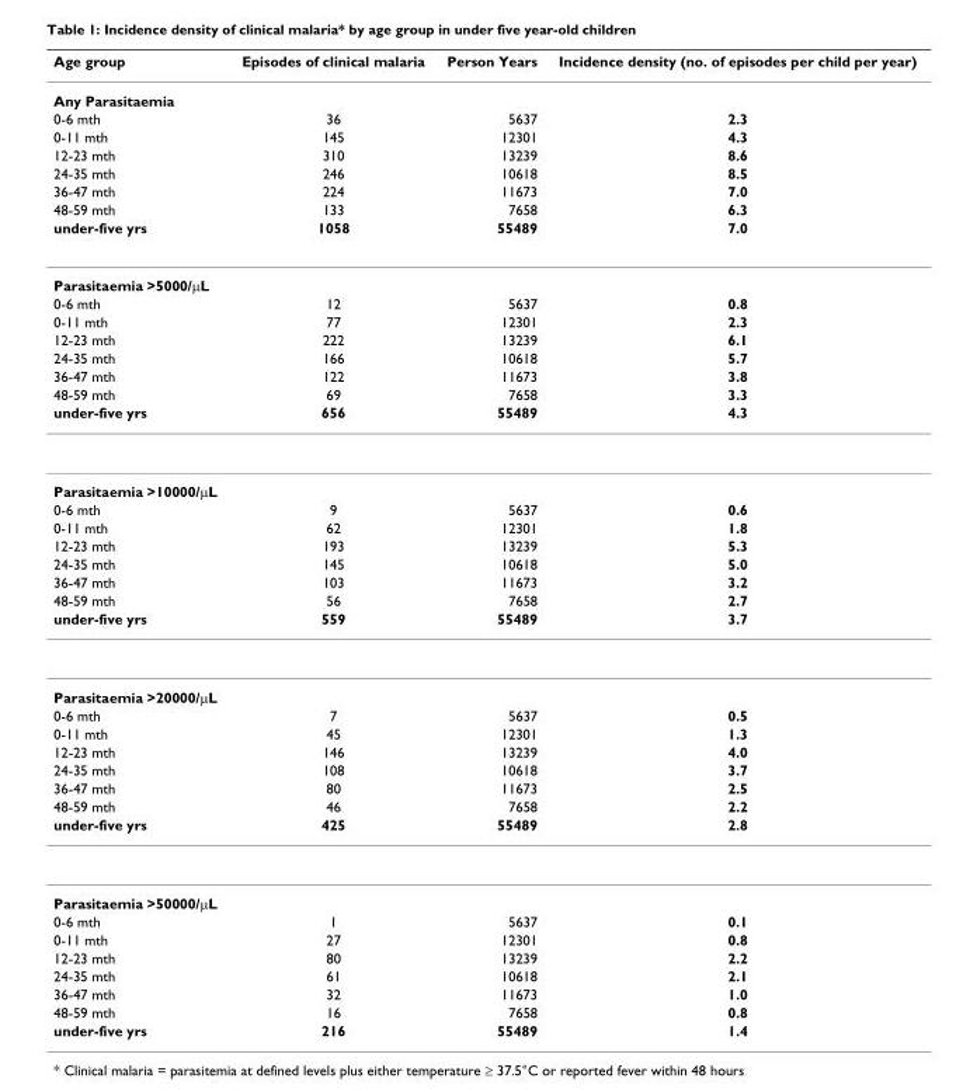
<table><thead><tr><td>Age group</td><td>Episodes of clinical malaria</td><td>Person Years</td><td>Incidence density (no. of episodes per child per year)</td></tr></thead><tbody><tr><td colspan="4">Any Parasitaemia</td></tr><tr><td>0-6 mth</td><td>36</td><td>5637</td><td>2.3</td></tr><tr><td>0-11 mth</td><td>145</td><td>12301</td><td>4.3</td></tr><tr><td>12-23 mth</td><td>310</td><td>13239</td><td>8.6</td></tr><tr><td>24-35 mth</td><td>246</td><td>10618</td><td>8.5</td></tr><tr><td>36-47 mth</td><td>224</td><td>11673</td><td>7.0</td></tr><tr><td>48-59 mth</td><td>133</td><td>7658</td><td>6.3</td></tr><tr><td>under-five yrs</td><td>1058</td><td>55489</td><td>7.0</td></tr><tr><td colspan="4">Parasitaemia &gt;5000/μL</td></tr><tr><td>0-6 mth</td><td>12</td><td>5637</td><td>0.8</td></tr><tr><td>0-11 mth</td><td>77</td><td>12301</td><td>2.3</td></tr><tr><td>12-23 mth</td><td>222</td><td>13239</td><td>6.1</td></tr><tr><td>24-35 mth</td><td>166</td><td>10618</td><td>5.7</td></tr><tr><td>36-47 mth</td><td>122</td><td>11673</td><td>3.8</td></tr><tr><td>48-59 mth</td><td>69</td><td>7658</td><td>3.3</td></tr><tr><td>under-five yrs</td><td>656</td><td>55489</td><td>4.3</td></tr><tr><td colspan="4">Parasitaemia &gt;10000/μL</td></tr><tr><td>0-6 mth</td><td>9</td><td>5637</td><td>0.6</td></tr><tr><td>0-11 mth</td><td>62</td><td>12301</td><td>1.8</td></tr><tr><td>12-23 mth</td><td>193</td><td>13239</td><td>5.3</td></tr><tr><td>24-35 mth</td><td>145</td><td>10618</td><td>5.0</td></tr><tr><td>36-47 mth</td><td>103</td><td>11673</td><td>3.2</td></tr><tr><td>48-59 mth</td><td>56</td><td>7658</td><td>2.7</td></tr><tr><td>under-five yrs</td><td>559</td><td>55489</td><td>3.7</td></tr><tr><td colspan="4">Parasitaemia &gt;20000/μL</td></tr><tr><td>0-6 mth</td><td>7</td><td>5637</td><td>0.5</td></tr><tr><td>0-11 mth</td><td>45</td><td>12301</td><td>1.3</td></tr><tr><td>12-23 mth</td><td>146</td><td>13239</td><td>4.0</td></tr><tr><td>24-35 mth</td><td>108</td><td>10618</td><td>3.7</td></tr><tr><td>36-47 mth</td><td>80</td><td>11673</td><td>2.5</td></tr><tr><td>48-59 mth</td><td>46</td><td>7658</td><td>2.2</td></tr><tr><td>under-five yrs</td><td>425</td><td>55489</td><td>2.8</td></tr><tr><td colspan="4">Parasitaemia &gt;50000/μL</td></tr><tr><td>0-6 mth</td><td>1</td><td>5637</td><td>0.1</td></tr><tr><td>0-11 mth</td><td>27</td><td>12301</td><td>0.8</td></tr><tr><td>12-23 mth</td><td>80</td><td>13239</td><td>2.2</td></tr><tr><td>24-35 mth</td><td>61</td><td>10618</td><td>2.1</td></tr><tr><td>36-47 mth</td><td>32</td><td>11673</td><td>1.0</td></tr><tr><td>48-59 mth</td><td>16</td><td>7658</td><td>0.8</td></tr><tr><td>under-five yrs</td><td>216</td><td>55489</td><td>1.4</td></tr></tbody></table>